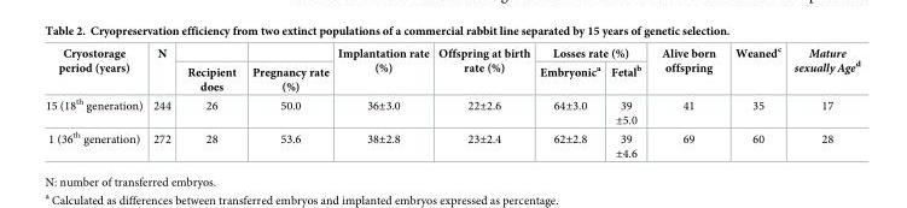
<table><thead><tr><td rowspan="2">Cryostorage period (years)</td><td rowspan="2">N</td><td rowspan="2">Recipient does</td><td rowspan="2">Pregnancy rate (%)</td><td rowspan="2">Implantation rate (%)</td><td rowspan="2">Offspring at birth rate (%)</td><td colspan="2">Losses rate (%)</td><td rowspan="2">Alive born offspring</td><td rowspan="2">Weaned<sup>c</sup></td><td rowspan="2">Mature sexually Age<sup>d</sup></td></tr><tr><td>Embryonic<sup>a</sup></td><td>Fetal<sup>b</sup></td></tr></thead><tbody><tr><td>15 (18<sup>th</sup> generation)</td><td>244</td><td>26</td><td>50.0</td><td>36±3.0</td><td>22±2.6</td><td>64±3.0</td><td>39 ±5.0</td><td>41</td><td>35</td><td>17</td></tr><tr><td>1 (36<sup>th</sup> generation)</td><td>272</td><td>28</td><td>53.6</td><td>38±2.8</td><td>23±2.4</td><td>62±2.8</td><td>39 ±4.6</td><td>69</td><td>60</td><td>28</td></tr></tbody></table>